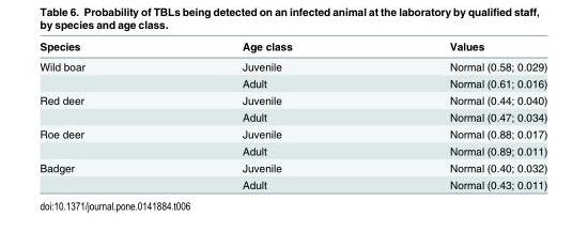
<table><thead><tr><td>Species</td><td>Age class</td><td>Values</td></tr></thead><tbody><tr><td rowspan="2">Wild boar</td><td>Juvenile</td><td>Normal (0.58; 0.029)</td></tr><tr><td>Adult</td><td>Normal (0.61; 0.016)</td></tr><tr><td rowspan="2">Red deer</td><td>Juvenile</td><td>Normal (0.44; 0.040)</td></tr><tr><td>Adult</td><td>Normal (0.47; 0.034)</td></tr><tr><td rowspan="2">Roe deer</td><td>Juvenile</td><td>Normal (0.88; 0.017)</td></tr><tr><td>Adult</td><td>Normal (0.89; 0.011)</td></tr><tr><td rowspan="2">Badger</td><td>Juvenile</td><td>Normal (0.40; 0.032)</td></tr><tr><td>Adult</td><td>Normal (0.43; 0.011)</td></tr></tbody></table>